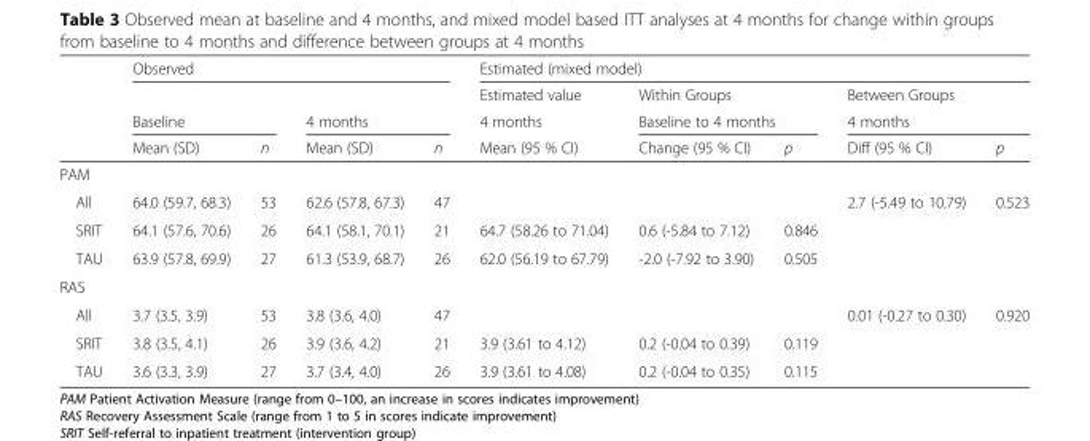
<table><thead><tr><td rowspan="4"></td><td colspan="4">Observed</td><td colspan="5">Estimated (mixed model)</td></tr><tr><td></td><td></td><td></td><td></td><td rowspan="3">Estimated value 4 months Mean (95 % CI)</td><td rowspan="2" colspan="2">Within Groups Baseline to 4 months</td><td rowspan="2" colspan="2">Between Groups 4 months</td></tr><tr><td colspan="2">Baseline</td><td colspan="2">4 months</td></tr><tr><td>Mean (SD)</td><td>n</td><td>Mean (SD)</td><td>n</td><td>Change (95 % CI)</td><td>p</td><td>Diff (95 % CI)</td><td>p</td></tr></thead><tbody><tr><td colspan="10">PAM</td></tr><tr><td>All</td><td>64.0 (59.7, 68.3)</td><td>53</td><td>62.6 (57.8, 67.3)</td><td>47</td><td></td><td></td><td></td><td>2.7 (-5.49 to 10.79)</td><td>0.523</td></tr><tr><td>SRIT</td><td>64.1 (57.6, 70.6)</td><td>26</td><td>64.1 (58.1, 70.1)</td><td>21</td><td>64.7 (58.26 to 71.04)</td><td>0.6 (-5.84 to 7.12)</td><td>0.846</td><td></td><td></td></tr><tr><td>TAU</td><td>63.9 (57.8, 69.9)</td><td>27</td><td>61.3 (53.9, 68.7)</td><td>26</td><td>62.0 (56.19 to 67.79)</td><td>-2.0 (-7.92 to 3.90)</td><td>0.505</td><td></td><td></td></tr><tr><td colspan="10">RAS</td></tr><tr><td>All</td><td>3.7 (3.5, 3.9)</td><td>53</td><td>3.8 (3.6, 4.0)</td><td>47</td><td></td><td></td><td></td><td>0.01 (-0.27 to 0.30)</td><td>0.920</td></tr><tr><td>SRIT</td><td>3.8 (3.5, 4.1)</td><td>26</td><td>3.9 (3.6, 4.2)</td><td>21</td><td>3.9 (3.61 to 4.12)</td><td>0.2 (-0.04 to 0.39)</td><td>0.119</td><td></td><td></td></tr><tr><td>TAU</td><td>3.6 (3.3, 3.9)</td><td>27</td><td>3.7 (3.4, 4.0)</td><td>26</td><td>3.9 (3.61 to 4.08)</td><td>0.2 (-0.04 to 0.35)</td><td>0.115</td><td></td><td></td></tr></tbody></table>